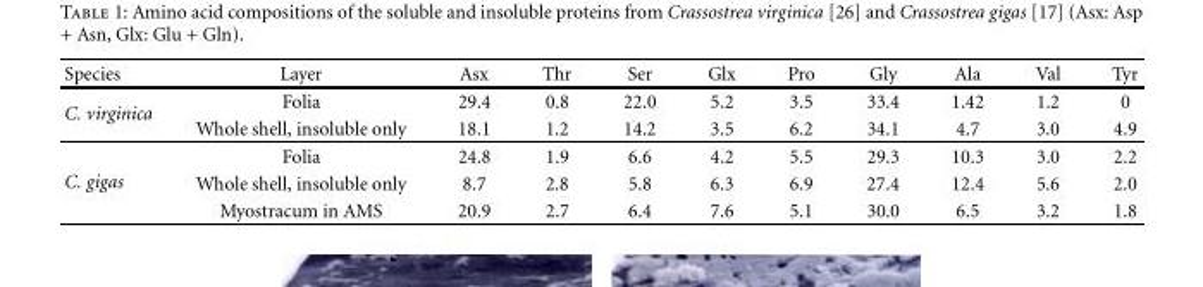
<table><thead><tr><td>Species</td><td>Layer</td><td>Asx</td><td>Thr</td><td>Ser</td><td>Glx</td><td>Pro</td><td>Gly</td><td>Ala</td><td>Val</td><td>Tyr</td></tr></thead><tbody><tr><td rowspan="2">C. virginica</td><td>Folia</td><td>29.4</td><td>0.8</td><td>22.0</td><td>5.2</td><td>3.5</td><td>33.4</td><td>1.42</td><td>1.2</td><td>0</td></tr><tr><td>Whole shell, insoluble only</td><td>18.1</td><td>1.2</td><td>14.2</td><td>3.5</td><td>6.2</td><td>34.1</td><td>4.7</td><td>3.0</td><td>4.9</td></tr><tr><td rowspan="3">C. gigas</td><td>Folia</td><td>24.8</td><td>1.9</td><td>6.6</td><td>4.2</td><td>5.5</td><td>29.3</td><td>10.3</td><td>3.0</td><td>2.2</td></tr><tr><td>Whole shell, insoluble only</td><td>8.7</td><td>2.8</td><td>5.8</td><td>6.3</td><td>6.9</td><td>27.4</td><td>12.4</td><td>5.6</td><td>2.0</td></tr><tr><td>Myostracum in AMS</td><td>20.9</td><td>2.7</td><td>6.4</td><td>7.6</td><td>5.1</td><td>30.0</td><td>6.5</td><td>3.2</td><td>1.8</td></tr></tbody></table>